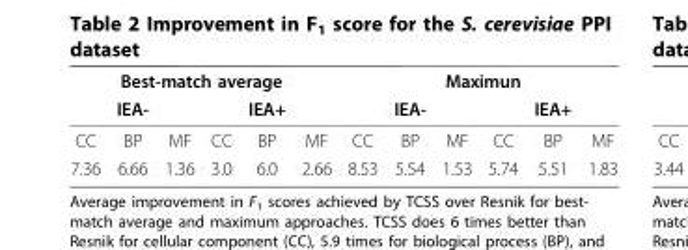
<table><thead><tr><td colspan="6">Best-match average</td><td colspan="6">Maximun</td></tr><tr><td></td><td>IEA-</td><td></td><td></td><td>IEA+</td><td></td><td></td><td>IEA-</td><td></td><td></td><td>IEA+</td><td></td></tr></thead><tbody><tr><td>CC</td><td>BP</td><td>MF</td><td>CC</td><td>BP</td><td>MF</td><td>CC</td><td>BP</td><td>MF</td><td>CC</td><td>BP</td><td>MF</td></tr><tr><td>7.36</td><td>6.66</td><td>1.36</td><td>3.0</td><td>6.0</td><td>2.66</td><td>8.53</td><td>5.54</td><td>1.53</td><td>5.74</td><td>5.51</td><td>1.83</td></tr></tbody></table>